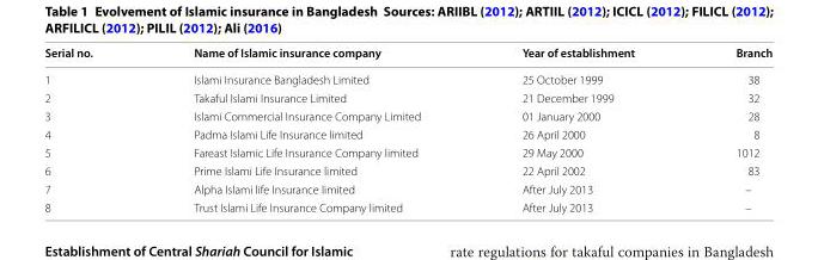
<table><thead><tr><td>Serial no.</td><td>Name of Islamic insurance company</td><td>Year of establishment</td><td>Branch</td></tr></thead><tbody><tr><td>1</td><td>Islami Insurance Bangladesh Limited</td><td>25 October 1999</td><td>38</td></tr><tr><td>2</td><td>Takaful Islami Insurance Limited</td><td>21 December 1999</td><td>32</td></tr><tr><td>3</td><td>Islami Commercial Insurance Company Limited</td><td>01 January 2000</td><td>28</td></tr><tr><td>4</td><td>Padma Islami Life Insurance limited</td><td>26 April 2000</td><td>8</td></tr><tr><td>5</td><td>Fareast Islamic Life Insurance Company limited</td><td>29 May 2000</td><td>1012</td></tr><tr><td>6</td><td>Prime Islami Life Insurance limited</td><td>22 April 2002</td><td>83</td></tr><tr><td>7</td><td>Alpha Islami life Insurance limited</td><td>After July 2013</td><td>–</td></tr><tr><td>8</td><td>Trust Islami Life Insurance Company limited</td><td>After July 2013</td><td>–</td></tr></tbody></table>